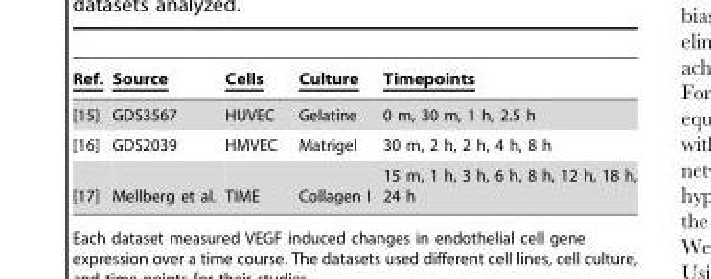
<table><thead><tr><td>Ref.</td><td>Source</td><td>Cells</td><td>Culture</td><td>Timepoints</td></tr></thead><tbody><tr><td>[15]</td><td>GDS3567</td><td>HUVEC</td><td>Gelatine</td><td>0 m, 30 m, 1 h, 2.5 h</td></tr><tr><td>[16]</td><td>GDS2039</td><td>HMVEC</td><td>Matrigel</td><td>30 m, 2 h, 2 h, 4 h, 8 h</td></tr><tr><td>[17]</td><td>Mellberg et al.</td><td>TIME</td><td>Collagen I</td><td>15 m, 1 h, 3 h, 6 h, 8 h, 12 h, 18 h, 24 h</td></tr></tbody></table>